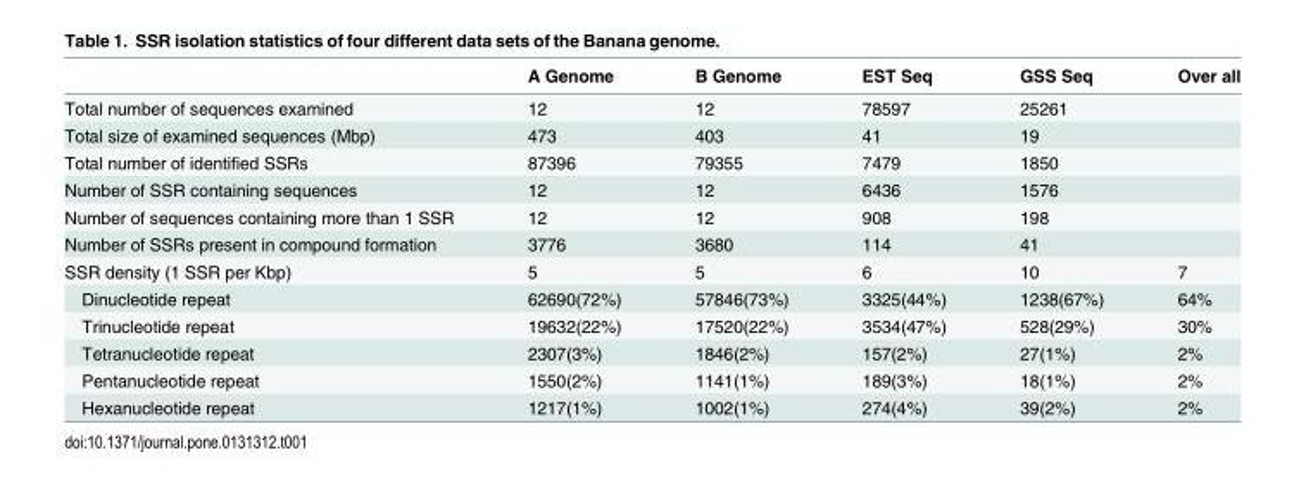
<table><thead><tr><td></td><td>A Genome</td><td>B Genome</td><td>EST Seq</td><td>GSS Seq</td><td>Over all</td></tr></thead><tbody><tr><td>Total number of sequences examined</td><td>12</td><td>12</td><td>78597</td><td>25261</td><td></td></tr><tr><td>Total size of examined sequences (Mbp)</td><td>473</td><td>403</td><td>41</td><td>19</td><td></td></tr><tr><td>Total number of identified SSRs</td><td>87396</td><td>79355</td><td>7479</td><td>1850</td><td></td></tr><tr><td>Number of SSR containing sequences</td><td>12</td><td>12</td><td>6436</td><td>1576</td><td></td></tr><tr><td>Number of sequences containing more than 1 SSR</td><td>12</td><td>12</td><td>908</td><td>198</td><td></td></tr><tr><td>Number of SSRs present in compound formation</td><td>3776</td><td>3680</td><td>114</td><td>41</td><td></td></tr><tr><td>SSR density (1 SSR per Kbp)</td><td>5</td><td>5</td><td>6</td><td>10</td><td>7</td></tr><tr><td>Dinucleotide repeat</td><td>62690(72%)</td><td>57846(73%)</td><td>3325(44%)</td><td>1238(67%)</td><td>64%</td></tr><tr><td>Trinucleotide repeat</td><td>19632(22%)</td><td>17520(22%)</td><td>3534(47%)</td><td>528(29%)</td><td>30%</td></tr><tr><td>Tetranucleotide repeat</td><td>2307(3%)</td><td>1846(2%)</td><td>157(2%)</td><td>27(1%)</td><td>2%</td></tr><tr><td>Pentanucleotide repeat</td><td>1550(2%)</td><td>1141(1%)</td><td>189(3%)</td><td>18(1%)</td><td>2%</td></tr><tr><td>Hexanucleotide repeat</td><td>1217(1%)</td><td>1002(1%)</td><td>274(4%)</td><td>39(2%)</td><td>2%</td></tr></tbody></table>